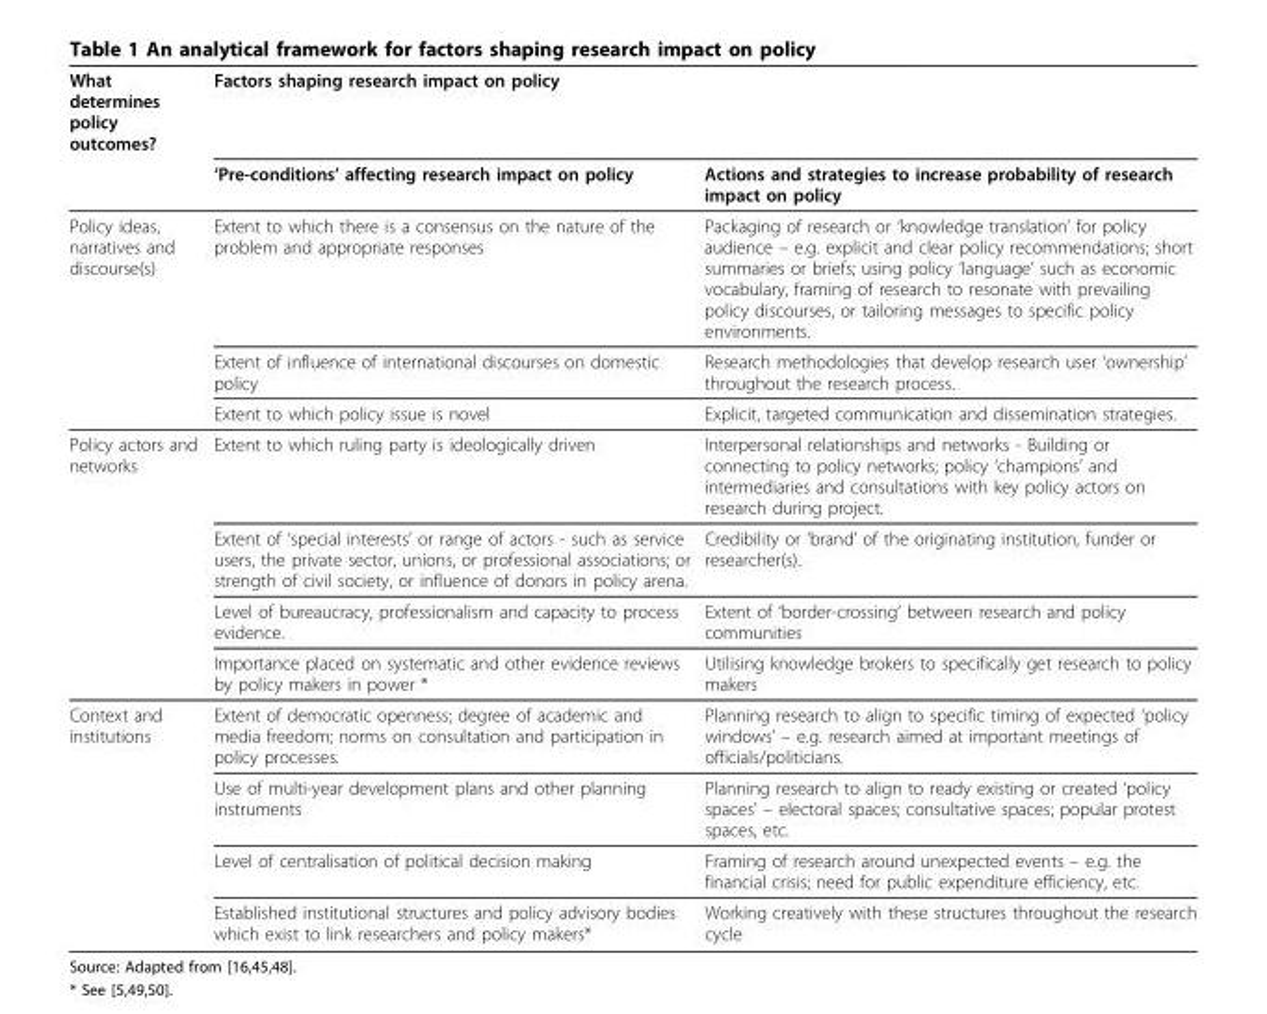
<table><thead><tr><td rowspan="2">What determines policy outcomes?</td><td colspan="2">Factors shaping research impact on policy</td></tr><tr><td>‘Pre-conditions’ affecting research impact on policy</td><td>Actions and strategies to increase probability of research impact on policy</td></tr></thead><tbody><tr><td rowspan="3">Policy ideas, narratives and discourse(s)</td><td>Extent to which there is a consensus on the nature of the problem and appropriate responses</td><td>Packaging of research or ‘knowledge translation’ for policy audience – e.g. explicit and clear policy recommendations; short summaries or briefs; using policy ‘language’ such as economic vocabulary, framing of research to resonate with prevailing policy discourses, or tailoring messages to specific policy environments.</td></tr><tr><td>Extent of influence of international discourses on domestic policy</td><td>Research methodologies that develop research user ‘ownership’ throughout the research process.</td></tr><tr><td>Extent to which policy issue is novel</td><td>Explicit, targeted communication and dissemination strategies.</td></tr><tr><td rowspan="4">Policy actors and networks</td><td>Extent to which ruling party is ideologically driven</td><td>Interpersonal relationships and networks - Building or connecting to policy networks; policy ‘champions’ and intermediaries and consultations with key policy actors on research during project.</td></tr><tr><td>Extent of ‘special interests’ or range of actors - such as service users, the private sector, unions, or professional associations; or strength of civil society, or influence of donors in policy arena.</td><td>Credibility or ‘brand’ of the originating institution, funder or researcher(s).</td></tr><tr><td>Level of bureaucracy, professionalism and capacity to process evidence.</td><td>Extent of ‘border-crossing’ between research and policy communities</td></tr><tr><td>Importance placed on systematic and other evidence reviews by policy makers in power *</td><td>Utilising knowledge brokers to specifically get research to policy makers</td></tr><tr><td rowspan="4">Context and institutions</td><td>Extent of democratic openness; degree of academic and media freedom; norms on consultation and participation in policy processes.</td><td>Planning research to align to specific timing of expected ‘policy windows’ – e.g. research aimed at important meetings of officials/politicians.</td></tr><tr><td>Use of multi-year development plans and other planning instruments</td><td>Planning research to align to ready existing or created ‘policy spaces’ – electoral spaces; consultative spaces; popular protest spaces, etc.</td></tr><tr><td>Level of centralisation of political decision making</td><td>Framing of research around unexpected events – e.g. the financial crisis; need for public expenditure efficiency, etc.</td></tr><tr><td>Established institutional structures and policy advisory bodies which exist to link researchers and policy makers*</td><td>Working creatively with these structures throughout the research cycle</td></tr></tbody></table>